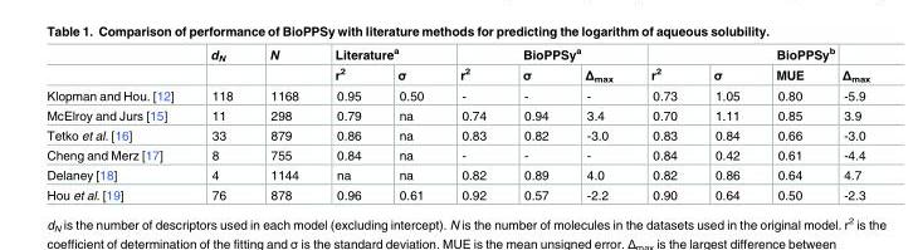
<table><thead><tr><td rowspan="2"></td><td rowspan="2">d<sub>N</sub></td><td rowspan="2">N</td><td colspan="2">Literature<sup>a</sup></td><td colspan="3">BioPPSy<sup>a</sup></td><td colspan="3">BioPPSy<sup>b</sup></td><td rowspan="2">Δ<sub>max</sub></td></tr><tr><td>r<sup>2</sup></td><td>σ</td><td>r<sup>2</sup></td><td>σ</td><td>Δ<sub>max</sub></td><td>r<sup>2</sup></td><td>σ</td><td>MUE</td></tr></thead><tbody><tr><td>Klopman and Hou. [12]</td><td>118</td><td>1168</td><td>0.95</td><td>0.50</td><td>-</td><td>-</td><td>-</td><td>0.73</td><td>1.05</td><td>0.80</td><td>-5.9</td></tr><tr><td>McElroy and Jurs [15]</td><td>11</td><td>298</td><td>0.79</td><td>na</td><td>0.74</td><td>0.94</td><td>3.4</td><td>0.70</td><td>1.11</td><td>0.85</td><td>3.9</td></tr><tr><td>Tetko et al. [16]</td><td>33</td><td>879</td><td>0.86</td><td>na</td><td>0.83</td><td>0.82</td><td>-3.0</td><td>0.83</td><td>0.84</td><td>0.66</td><td>-3.0</td></tr><tr><td>Cheng and Merz [17]</td><td>8</td><td>755</td><td>0.84</td><td>na</td><td>-</td><td>-</td><td>-</td><td>0.84</td><td>0.42</td><td>0.61</td><td>-4.4</td></tr><tr><td>Delaney [18]</td><td>4</td><td>1144</td><td>na</td><td>na</td><td>0.82</td><td>0.89</td><td>4.0</td><td>0.82</td><td>0.86</td><td>0.64</td><td>4.7</td></tr><tr><td>Hou et al. [19]</td><td>76</td><td>878</td><td>0.96</td><td>0.61</td><td>0.92</td><td>0.57</td><td>-2.2</td><td>0.90</td><td>0.64</td><td>0.50</td><td>-2.3</td></tr></tbody></table>